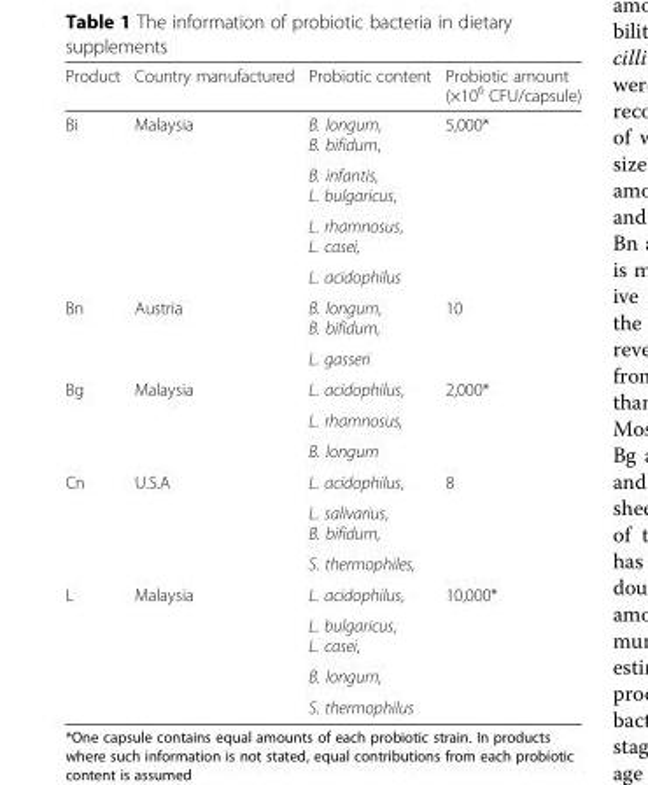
<table><thead><tr><td>Product</td><td>Country manufactured</td><td>Probiotic content</td><td>Probiotic amount (×10<sup>6</sup> CFU/capsule)</td></tr></thead><tbody><tr><td rowspan="4">Bi</td><td rowspan="4">Malaysia</td><td>B. longum, B. bifidum,</td><td rowspan="4">5,000*</td></tr><tr><td>B. infantis, L. bulgaricus,</td></tr><tr><td>L. rhamnosus, L. casei,</td></tr><tr><td>L. acidophilus</td></tr><tr><td rowspan="2">Bn</td><td rowspan="2">Austria</td><td>B. longum, B. bifidum,</td><td rowspan="2">10</td></tr><tr><td>L. gasseri</td></tr><tr><td rowspan="3">Bg</td><td rowspan="3">Malaysia</td><td>L. acidophilus,</td><td rowspan="3">2,000*</td></tr><tr><td>L. rhamnosus,</td></tr><tr><td>B. longum</td></tr><tr><td rowspan="3">Cn</td><td rowspan="3">U.S.A</td><td>L. acidophilus,</td><td rowspan="3">8</td></tr><tr><td>L. salivarius, B. bifidum,</td></tr><tr><td>S. thermophiles,</td></tr><tr><td rowspan="4">L</td><td rowspan="4">Malaysia</td><td>L. acidophilus,</td><td rowspan="4">10,000*</td></tr><tr><td>L. bulgaricus, L. casei,</td></tr><tr><td>B. longum,</td></tr><tr><td>S. thermophilus</td></tr></tbody></table>